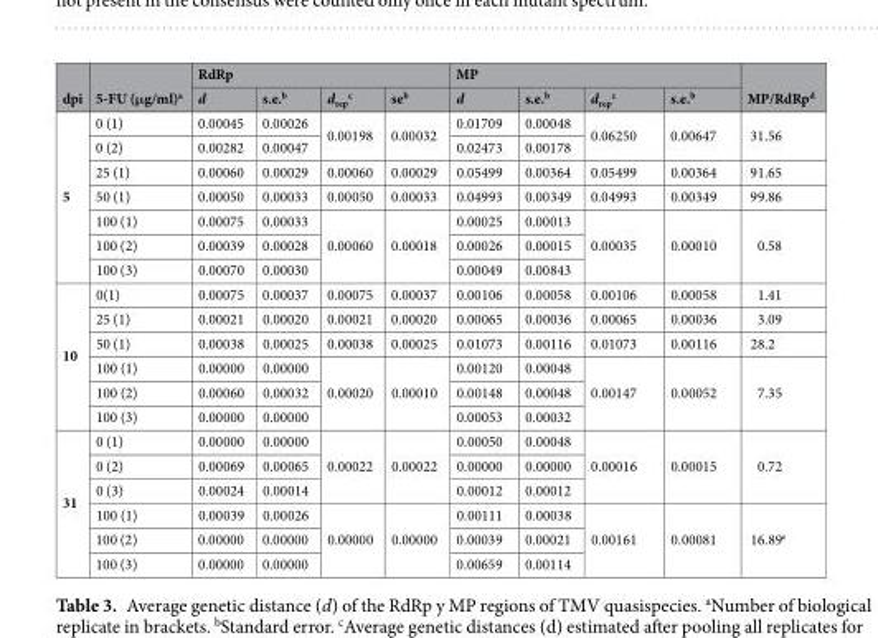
<table><thead><tr><td rowspan="2">dpi</td><td rowspan="2">5-FU (μg/ml)<sup>a</sup></td><td colspan="4">RdRp</td><td colspan="4">MP</td><td rowspan="2">MP/RdRp<sup>d</sup></td></tr><tr><td>d</td><td>s.e.<sup>b</sup></td><td>d<sub>rep</sub> <sup>c</sup></td><td>se<sup>b</sup></td><td>d</td><td>s.e.<sup>b</sup></td><td>d<sub>rep</sub> <sup>c</sup></td><td>s.e.<sup>b</sup></td></tr></thead><tbody><tr><td rowspan="7">5</td><td>0 (1)</td><td>0.00045</td><td>0.00026</td><td rowspan="2">0.00198</td><td rowspan="2">0.00032</td><td>0.01709</td><td>0.00048</td><td rowspan="2">0.06250</td><td rowspan="2">0.00647</td><td rowspan="2">31.56</td></tr><tr><td>0 (2)</td><td>0.00282</td><td>0.00047</td><td>0.02473</td><td>0.00178</td></tr><tr><td>25 (1)</td><td>0.00060</td><td>0.00029</td><td>0.00060</td><td>0.00029</td><td>0.05499</td><td>0.00364</td><td>0.05499</td><td>0.00364</td><td>91.65</td></tr><tr><td>50 (1)</td><td>0.00050</td><td>0.00033</td><td>0.00050</td><td>0.00033</td><td>0.04993</td><td>0.00349</td><td>0.04993</td><td>0.00349</td><td>99.86</td></tr><tr><td>100 (1)</td><td>0.00075</td><td>0.00033</td><td rowspan="3">0.00060</td><td rowspan="3">0.00018</td><td>0.00025</td><td>0.00013</td><td rowspan="3">0.00035</td><td rowspan="3">0.00010</td><td rowspan="3">0.58</td></tr><tr><td>100 (2)</td><td>0.00039</td><td>0.00028</td><td>0.00026</td><td>0.00015</td></tr><tr><td>100 (3)</td><td>0.00070</td><td>0.00030</td><td>0.00049</td><td>0.00843</td></tr><tr><td rowspan="6">10</td><td>0(1)</td><td>0.00075</td><td>0.00037</td><td>0.00075</td><td>0.00037</td><td>0.00106</td><td>0.00058</td><td>0.00106</td><td>0.00058</td><td>1.41</td></tr><tr><td>25 (1)</td><td>0.00021</td><td>0.00020</td><td>0.00021</td><td>0.00020</td><td>0.00065</td><td>0.00036</td><td>0.00065</td><td>0.00036</td><td>3.09</td></tr><tr><td>50 (1)</td><td>0.00038</td><td>0.00025</td><td>0.00038</td><td>0.00025</td><td>0.01073</td><td>0.00116</td><td>0.01073</td><td>0.00116</td><td>28.2</td></tr><tr><td>100 (1)</td><td>0.00000</td><td>0.00000</td><td rowspan="3">0.00020</td><td rowspan="3">0.00010</td><td>0.00120</td><td>0.00048</td><td rowspan="3">0.00147</td><td rowspan="3">0.00052</td><td rowspan="3">7.35</td></tr><tr><td>100 (2)</td><td>0.00060</td><td>0.00032</td><td>0.00148</td><td>0.00048</td></tr><tr><td>100 (3)</td><td>0.00000</td><td>0.00000</td><td>0.00053</td><td>0.00032</td></tr><tr><td rowspan="6">31</td><td>0 (1)</td><td>0.00000</td><td>0.00000</td><td rowspan="3">0.00022</td><td rowspan="3">0.00022</td><td>0.00050</td><td>0.00048</td><td rowspan="3">0.00016</td><td rowspan="3">0.00015</td><td rowspan="3">0.72</td></tr><tr><td>0 (2)</td><td>0.00069</td><td>0.00065</td><td>0.00000</td><td>0.00000</td></tr><tr><td>0 (3)</td><td>0.00024</td><td>0.00014</td><td>0.00012</td><td>0.00012</td></tr><tr><td>100 (1)</td><td>0.00039</td><td>0.00026</td><td rowspan="3">0.00000</td><td rowspan="3">0.00000</td><td>0.00111</td><td>0.00038</td><td rowspan="3">0.00161</td><td rowspan="3">0.00081</td><td rowspan="3">16.89<sup>e</sup></td></tr><tr><td>100 (2)</td><td>0.00000</td><td>0.00000</td><td>0.00039</td><td>0.00021</td></tr><tr><td>100 (3)</td><td>0.00000</td><td>0.00000</td><td>0.00659</td><td>0.00114</td></tr></tbody></table>